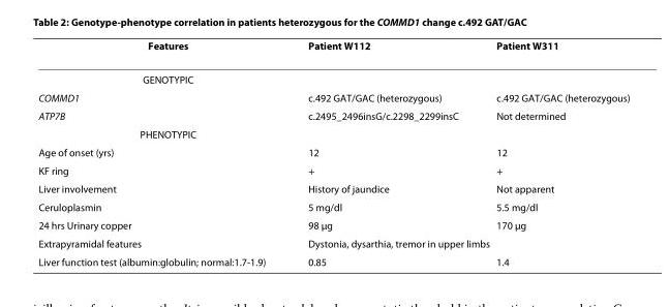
<table><thead><tr><td>Features</td><td>Patient W112</td><td>Patient W311</td></tr></thead><tbody><tr><td colspan="3">GENOTYPIC</td></tr><tr><td>COMMD1</td><td>c.492 GAT/GAC (heterozygous)</td><td>c.492 GAT/GAC (heterozygous)</td></tr><tr><td>ATP7B</td><td>c.2495_2496insG/c.2298_2299insC</td><td>Not determined</td></tr><tr><td colspan="3">PHENOTYPIC</td></tr><tr><td>Age of onset (yrs)</td><td>12</td><td>12</td></tr><tr><td>KF ring</td><td>+</td><td>+</td></tr><tr><td>Liver involvement</td><td>History of jaundice</td><td>Not apparent</td></tr><tr><td>Ceruloplasmin</td><td>5 mg/dl</td><td>5.5 mg/dl</td></tr><tr><td>24 hrs Urinary copper</td><td>98 μg</td><td>170 μg</td></tr><tr><td>Extrapyramidal features</td><td colspan="2">Dystonia, dysarthia, tremor in upper limbs</td></tr><tr><td>Liver function test (albumin:globulin; normal:1.7-1.9)</td><td>0.85</td><td>1.4</td></tr></tbody></table>